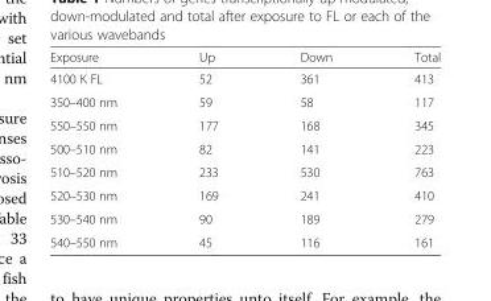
<table><thead><tr><td>Exposure</td><td>Up</td><td>Down</td><td>Total</td></tr></thead><tbody><tr><td>4100 K FL</td><td>52</td><td>361</td><td>413</td></tr><tr><td>350–400 nm</td><td>59</td><td>58</td><td>117</td></tr><tr><td>550–550 nm</td><td>177</td><td>168</td><td>345</td></tr><tr><td>500–510 nm</td><td>82</td><td>141</td><td>223</td></tr><tr><td>510–520 nm</td><td>233</td><td>530</td><td>763</td></tr><tr><td>520–530 nm</td><td>169</td><td>241</td><td>410</td></tr><tr><td>530–540 nm</td><td>90</td><td>189</td><td>279</td></tr><tr><td>540–550 nm</td><td>45</td><td>116</td><td>161</td></tr></tbody></table>